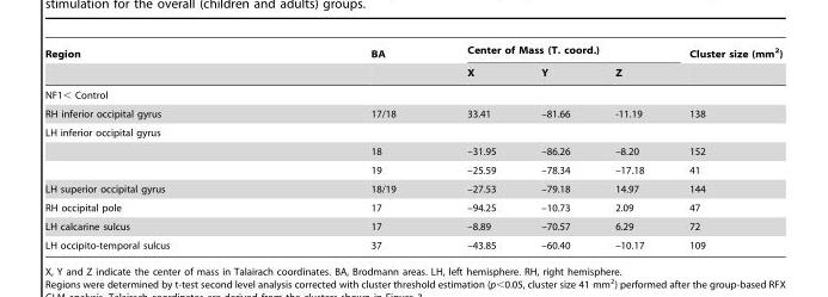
<table><thead><tr><td rowspan="2">Region</td><td rowspan="2">BA</td><td colspan="3">Center of Mass (T. coord.)</td><td rowspan="2">Cluster size (mm<sup>2</sup>)</td></tr><tr><td>X</td><td>Y</td><td>Z</td></tr></thead><tbody><tr><td colspan="6">NF1&lt; Control</td></tr><tr><td>RH inferior occipital gyrus</td><td>17/18</td><td>33.41</td><td>–81.66</td><td>-11.19</td><td>138</td></tr><tr><td colspan="6">LH inferior occipital gyrus</td></tr><tr><td></td><td>18</td><td>–31.95</td><td>–86.26</td><td>–8.20</td><td>152</td></tr><tr><td></td><td>19</td><td>–25.59</td><td>–78.34</td><td>–17.18</td><td>41</td></tr><tr><td>LH superior occipital gyrus</td><td>18/19</td><td>–27.53</td><td>–79.18</td><td>14.97</td><td>144</td></tr><tr><td>RH occipital pole</td><td>17</td><td>–94.25</td><td>–10.73</td><td>2.09</td><td>47</td></tr><tr><td>LH calcarine sulcus</td><td>17</td><td>–8.89</td><td>–70.57</td><td>6.29</td><td>72</td></tr><tr><td>LH occipito-temporal sulcus</td><td>37</td><td>–43.85</td><td>–60.40</td><td>–10.17</td><td>109</td></tr></tbody></table>